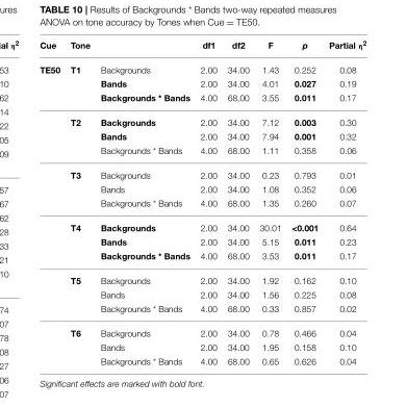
<table><thead><tr><td>Cue</td><td>Tone</td><td></td><td>df1</td><td>df2</td><td>F</td><td>p</td><td>Partial η<sup>2</sup></td></tr></thead><tbody><tr><td rowspan="18">TE50</td><td>T1</td><td>Backgrounds</td><td>2.00</td><td>34.00</td><td>1.43</td><td>0.252</td><td>0.08</td></tr><tr><td></td><td>Bands</td><td>2.00</td><td>34.00</td><td>4.01</td><td>0.027</td><td>0.19</td></tr><tr><td></td><td>Backgrounds * Bands</td><td>4.00</td><td>68.00</td><td>3.55</td><td>0.011</td><td>0.17</td></tr><tr><td>T2</td><td>Backgrounds</td><td>2.00</td><td>34.00</td><td>7.12</td><td>0.003</td><td>0.30</td></tr><tr><td></td><td>Bands</td><td>2.00</td><td>34.00</td><td>7.94</td><td>0.001</td><td>0.32</td></tr><tr><td></td><td>Backgrounds * Bands</td><td>4.00</td><td>68.00</td><td>1.11</td><td>0.358</td><td>0.06</td></tr><tr><td>T3</td><td>Backgrounds</td><td>2.00</td><td>34.00</td><td>0.23</td><td>0.793</td><td>0.01</td></tr><tr><td></td><td>Bands</td><td>2.00</td><td>34.00</td><td>1.08</td><td>0.352</td><td>0.06</td></tr><tr><td></td><td>Backgrounds * Bands</td><td>4.00</td><td>68.00</td><td>1.35</td><td>0.260</td><td>0.07</td></tr><tr><td>T4</td><td>Backgrounds</td><td>2.00</td><td>34.00</td><td>30.01</td><td>&lt;0.001</td><td>0.64</td></tr><tr><td></td><td>Bands</td><td>2.00</td><td>34.00</td><td>5.15</td><td>0.011</td><td>0.23</td></tr><tr><td></td><td>Backgrounds * Bands</td><td>4.00</td><td>68.00</td><td>3.53</td><td>0.011</td><td>0.17</td></tr><tr><td>T5</td><td>Backgrounds</td><td>2.00</td><td>34.00</td><td>1.92</td><td>0.162</td><td>0.10</td></tr><tr><td></td><td>Bands</td><td>2.00</td><td>34.00</td><td>1.56</td><td>0.225</td><td>0.08</td></tr><tr><td></td><td>Backgrounds * Bands</td><td>4.00</td><td>68.00</td><td>0.33</td><td>0.857</td><td>0.02</td></tr><tr><td>T6</td><td>Backgrounds</td><td>2.00</td><td>34.00</td><td>0.78</td><td>0.466</td><td>0.04</td></tr><tr><td></td><td>Bands</td><td>2.00</td><td>34.00</td><td>1.95</td><td>0.158</td><td>0.10</td></tr><tr><td></td><td>Backgrounds * Bands</td><td>4.00</td><td>68.00</td><td>0.65</td><td>0.626</td><td>0.04</td></tr></tbody></table>